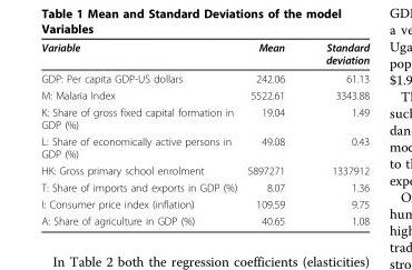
<table><thead><tr><td>Variable</td><td>Mean</td><td>Standard deviation</td></tr></thead><tbody><tr><td>GDP: Per capita GDP-US dollars</td><td>242.06</td><td>61.13</td></tr><tr><td>M: Malaria Index</td><td>5522.61</td><td>3343.88</td></tr><tr><td>K: Share of gross fixed capital formation in GDP (%)</td><td>19.04</td><td>1.49</td></tr><tr><td>L: Share of economically active persons in GDP (%)</td><td>49.08</td><td>0.43</td></tr><tr><td>HK: Gross primary school enrolment</td><td>5897271</td><td>1337912</td></tr><tr><td>T: Share of imports and exports in GDP (%)</td><td>8.07</td><td>1.36</td></tr><tr><td>I: Consumer price index (inflation)</td><td>109.59</td><td>9.75</td></tr><tr><td>A: Share of agriculture in GDP (%)</td><td>40.65</td><td>1.08</td></tr></tbody></table>